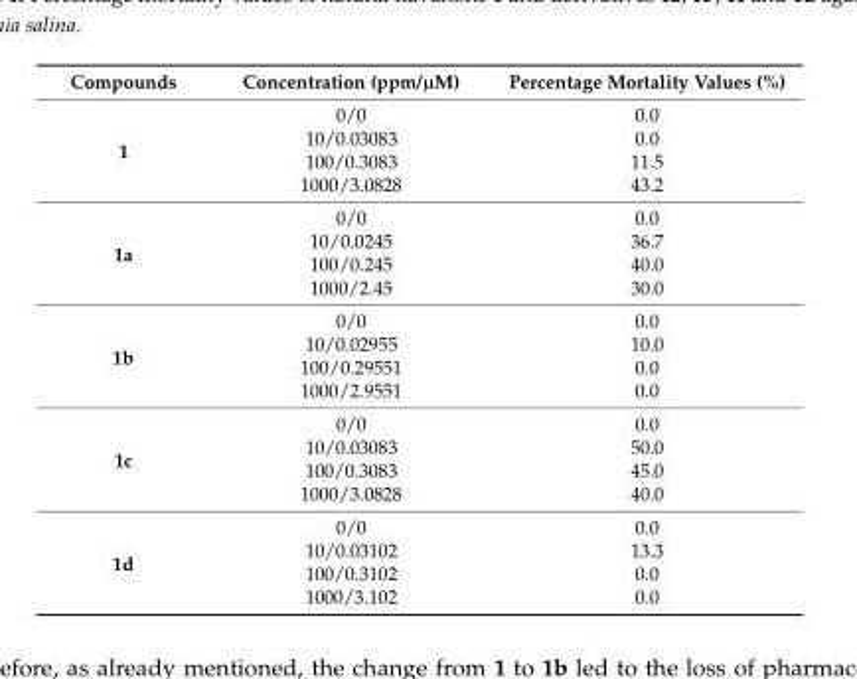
<table><thead><tr><td>Compounds</td><td>Concentration (ppm/µM)</td><td>Percentage Mortality Values (%)</td></tr></thead><tbody><tr><td rowspan="4">1</td><td>0/0</td><td>0.0</td></tr><tr><td>10/0.03083</td><td>0.0</td></tr><tr><td>100/0.3083</td><td>11.5</td></tr><tr><td>1000/3.0828</td><td>43.2</td></tr><tr><td rowspan="4">1a</td><td>0/0</td><td>0.0</td></tr><tr><td>10/0.0245</td><td>36.7</td></tr><tr><td>100/0.245</td><td>40.0</td></tr><tr><td>1000/2.45</td><td>30.0</td></tr><tr><td rowspan="4">1b</td><td>0/0</td><td>0.0</td></tr><tr><td>10/0.02955</td><td>10.0</td></tr><tr><td>100/0.29551</td><td>0.0</td></tr><tr><td>1000/2.9551</td><td>0.0</td></tr><tr><td rowspan="4">1c</td><td>0/0</td><td>0.0</td></tr><tr><td>10/0.03083</td><td>50.0</td></tr><tr><td>100/0.3083</td><td>45.0</td></tr><tr><td>1000/3.0828</td><td>40.0</td></tr><tr><td rowspan="4">1d</td><td>0/0</td><td>0.0</td></tr><tr><td>10/0.03102</td><td>13.3</td></tr><tr><td>100/0.3102</td><td>0.0</td></tr><tr><td>1000/3.102</td><td>0.0</td></tr></tbody></table>